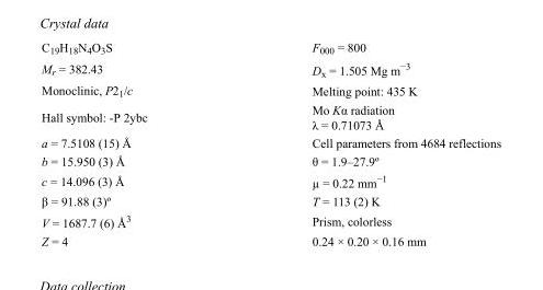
<table><tbody><tr><td>C<sub>19</sub>H<sub>18</sub>N<sub>4</sub>O<sub>3</sub>S</td><td>F<sub>000</sub> = 800</td></tr><tr><td>M<sub>r</sub> = 382.43</td><td>D<sub>x</sub> = 1.505 Mg m<sup>−3</sup></td></tr><tr><td>Monoclinic, P2<sub>1</sub>/c</td><td>Melting point: 435 K</td></tr><tr><td>Hall symbol: -P 2ybc</td><td>Mo Kα radiation λ = 0.71073 Å</td></tr><tr><td>a = 7.5108 (15) Å</td><td>Cell parameters from 4684 reflections</td></tr><tr><td>b = 15.950 (3) Å</td><td>θ = 1.9–27.9º</td></tr><tr><td>c = 14.096 (3) Å</td><td>µ = 0.22 mm<sup>−1</sup></td></tr><tr><td>β = 91.88 (3)º</td><td>T = 113 (2) K</td></tr><tr><td>V = 1687.7 (6) Å<sup>3</sup></td><td>Prism, colorless</td></tr><tr><td>Z = 4</td><td>0.24 × 0.20 × 0.16 mm</td></tr></tbody></table>